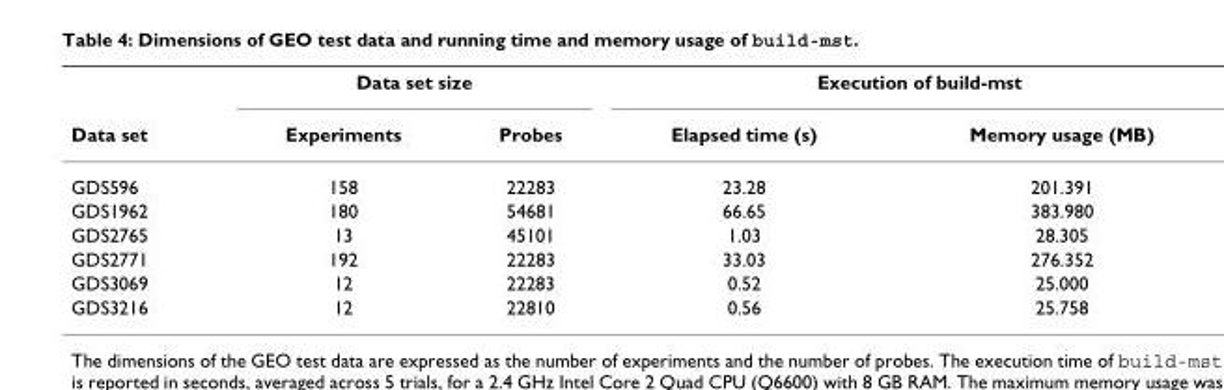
<table><thead><tr><td rowspan="2">Data set</td><td colspan="2">Data set size</td><td colspan="2">Execution of build-mst</td></tr><tr><td>Experiments</td><td>Probes</td><td>Elapsed time (s)</td><td>Memory usage (MB)</td></tr></thead><tbody><tr><td>GDS596</td><td>158</td><td>22283</td><td>23.28</td><td>201.391</td></tr><tr><td>GDS1962</td><td>180</td><td>54681</td><td>66.65</td><td>383.980</td></tr><tr><td>GDS2765</td><td>13</td><td>45101</td><td>1.03</td><td>28.305</td></tr><tr><td>GDS2771</td><td>192</td><td>22283</td><td>33.03</td><td>276.352</td></tr><tr><td>GDS3069</td><td>12</td><td>22283</td><td>0.52</td><td>25.000</td></tr><tr><td>GDS3216</td><td>12</td><td>22810</td><td>0.56</td><td>25.758</td></tr></tbody></table>